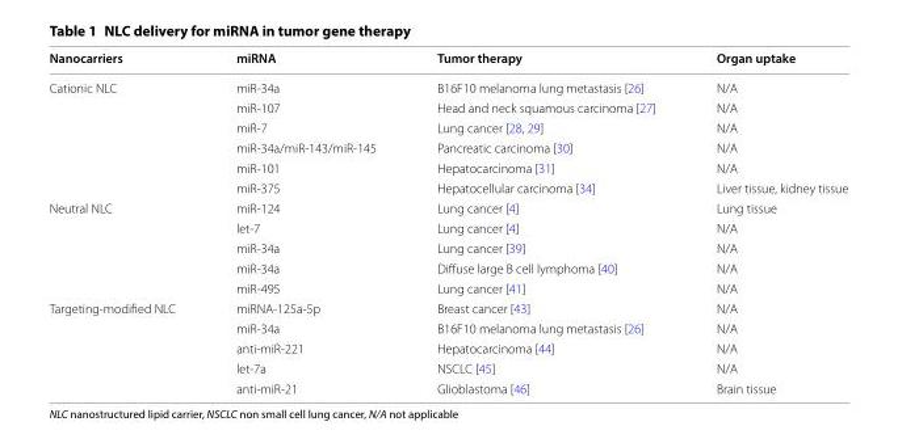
<table><thead><tr><td>Nanocarriers</td><td>miRNA</td><td>Tumor therapy</td><td>Organ uptake</td></tr></thead><tbody><tr><td rowspan="6">Cationic NLC</td><td>miR-34a</td><td>B16F10 melanoma lung metastasis [26]</td><td>N/A</td></tr><tr><td>miR-107</td><td>Head and neck squamous carcinoma [27]</td><td>N/A</td></tr><tr><td>miR-7</td><td>Lung cancer [28, 29]</td><td>N/A</td></tr><tr><td>miR-34a/miR-143/miR-145</td><td>Pancreatic carcinoma [30]</td><td>N/A</td></tr><tr><td>miR-101</td><td>Hepatocarcinoma [31]</td><td>N/A</td></tr><tr><td>miR-375</td><td>Hepatocellular carcinoma [34]</td><td>Liver tissue, kidney tissue</td></tr><tr><td rowspan="5">Neutral NLC</td><td>miR-124</td><td>Lung cancer [4]</td><td>Lung tissue</td></tr><tr><td>let-7</td><td>Lung cancer [4]</td><td>N/A</td></tr><tr><td>miR-34a</td><td>Lung cancer [39]</td><td>N/A</td></tr><tr><td>miR-34a</td><td>Diffuse large B cell lymphoma [40]</td><td>N/A</td></tr><tr><td>miR-495</td><td>Lung cancer [41]</td><td>N/A</td></tr><tr><td rowspan="5">Targeting-modified NLC</td><td>miRNA-125a-5p</td><td>Breast cancer [43]</td><td>N/A</td></tr><tr><td>miR-34a</td><td>B16F10 melanoma lung metastasis [26]</td><td>N/A</td></tr><tr><td>anti-miR-221</td><td>Hepatocarcinoma [44]</td><td>N/A</td></tr><tr><td>let-7a</td><td>NSCLC [45]</td><td>N/A</td></tr><tr><td>anti-miR-21</td><td>Glioblastoma [46]</td><td>Brain tissue</td></tr></tbody></table>